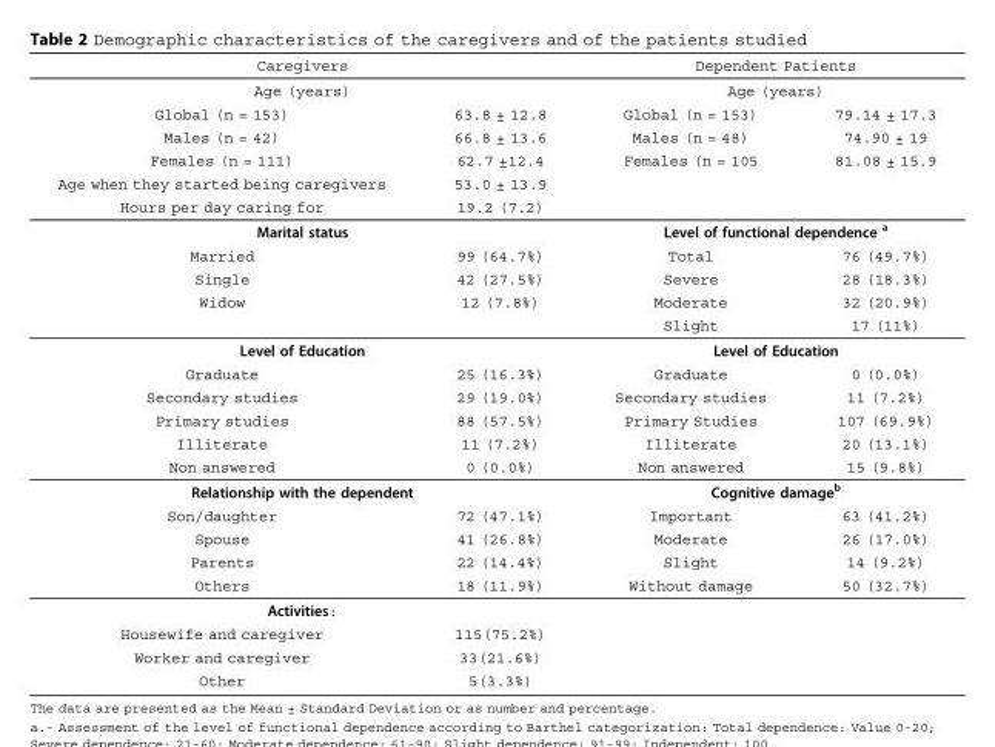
<table><thead><tr><td rowspan="2" colspan="2">Caregivers Age (years)</td><td rowspan="2" colspan="2">Dependent Patients Age (years)</td></tr><tr></tr><tr><td>Global (n = 153)</td><td>63.8 ± 12.8</td><td>Global (n = 153)</td><td>79.14 ± 17.3</td></tr></thead><tbody><tr><td>Males (n = 42)</td><td>66.8 ± 13.6</td><td>Males (n = 48)</td><td>74.90 ± 19</td></tr><tr><td>Females (n = 111)</td><td>62.7 ±12.4</td><td>Females (n = 105</td><td>81.08 ± 15.9</td></tr><tr><td>Age when they started being caregivers</td><td>53.0 ± 13.9</td><td></td><td></td></tr><tr><td>Hours per day caring for</td><td>19.2 (7.2)</td><td></td><td></td></tr><tr><td colspan="2">Marital status</td><td colspan="2">Level of functional dependence <sup>a</sup></td></tr><tr><td>Married</td><td>99 (64.7%)</td><td>Total</td><td>76 (49.7%)</td></tr><tr><td>Single</td><td>42 (27.5%)</td><td>Severe</td><td>28 (18.3%)</td></tr><tr><td rowspan="2">Widow</td><td>12 (7.8%)</td><td>Moderate</td><td>32 (20.9%)</td></tr><tr><td></td><td>Slight</td><td>17 (11%)</td></tr><tr><td colspan="2">Level of Education</td><td colspan="2">Level of Education</td></tr><tr><td>Graduate</td><td>25 (16.3%)</td><td>Graduate</td><td>0 (0.0%)</td></tr><tr><td>Secondary studies</td><td>29 (19.0%)</td><td>Secondary studies</td><td>11 (7.2%)</td></tr><tr><td>Primary studies</td><td>88 (57.5%)</td><td>Primary Studies</td><td>107 (69.9%)</td></tr><tr><td>Illiterate</td><td>11 (7.2%)</td><td>Illiterate</td><td>20 (13.1%)</td></tr><tr><td>Non answered</td><td>0 (0.0%)</td><td>Non answered</td><td>15 (9.8%)</td></tr><tr><td colspan="2">Relationship with the dependent</td><td colspan="2">Cognitive damage<sup>b</sup></td></tr><tr><td>Son/daughter</td><td>72 (47.1%)</td><td>Important</td><td>63 (41.2%)</td></tr><tr><td>Spouse</td><td>41 (26.8%)</td><td>Moderate</td><td>26 (17.0%)</td></tr><tr><td>Parents</td><td>22 (14.4%)</td><td>Slight</td><td>14 (9.2%)</td></tr><tr><td>Others</td><td>18 (11.9%)</td><td>Without damage</td><td>50 (32.7%)</td></tr><tr><td colspan="4">Activities:</td></tr><tr><td>Housewife and caregiver</td><td>115(75.2%)</td><td></td><td></td></tr><tr><td>Worker and caregiver</td><td>33(21.6%)</td><td></td><td></td></tr><tr><td>Other</td><td>5(3.3%)</td><td></td><td></td></tr></tbody></table>